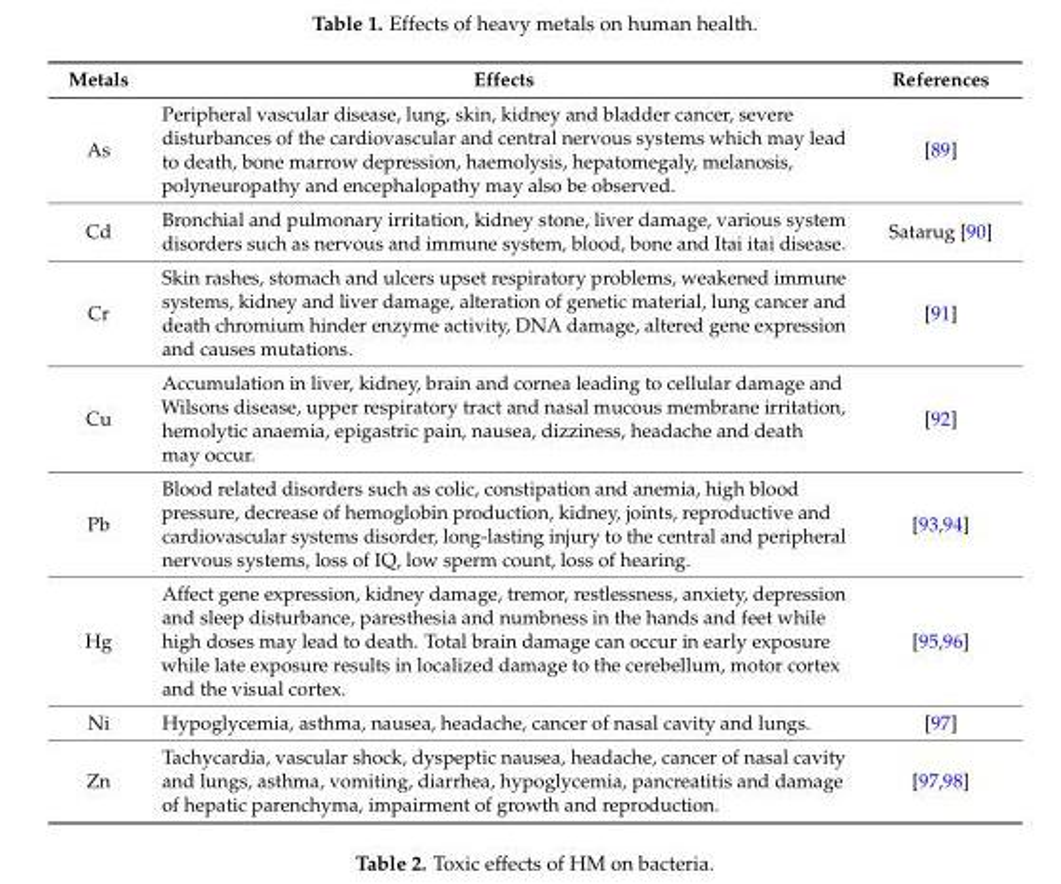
<table><thead><tr><td>Metals</td><td>Effects</td><td>References</td></tr></thead><tbody><tr><td>As</td><td>Peripheral vascular disease, lung, skin, kidney and bladder cancer, severe disturbances of the cardiovascular and central nervous systems which may lead to death, bone marrow depression, haemolysis, hepatomegaly, melanosis, polyneuropathy and encephalopathy may also be observed.</td><td>[89]</td></tr><tr><td>Cd</td><td>Bronchial and pulmonary irritation, kidney stone, liver damage, various system disorders such as nervous and immune system, blood, bone and Itai itai disease.</td><td>Satarug [90]</td></tr><tr><td>Cr</td><td>Skin rashes, stomach and ulcers upset respiratory problems, weakened immune systems, kidney and liver damage, alteration of genetic material, lung cancer and death chromium hinder enzyme activity, DNA damage, altered gene expression and causes mutations.</td><td>[91]</td></tr><tr><td>Cu</td><td>Accumulation in liver, kidney, brain and cornea leading to cellular damage and Wilsons disease, upper respiratory tract and nasal mucous membrane irritation, hemolytic anaemia, epigastric pain, nausea, dizziness, headache and death may occur.</td><td>[92]</td></tr><tr><td>Pb</td><td>Blood related disorders such as colic, constipation and anemia, high blood pressure, decrease of hemoglobin production, kidney, joints, reproductive and cardiovascular systems disorder, long-lasting injury to the central and peripheral nervous systems, loss of IQ, low sperm count, loss of hearing.</td><td>[93,94]</td></tr><tr><td>Hg</td><td>Affect gene expression, kidney damage, tremor, restlessness, anxiety, depression and sleep disturbance, paresthesia and numbness in the hands and feet while high doses may lead to death. Total brain damage can occur in early exposure while late exposure results in localized damage to the cerebellum, motor cortex and the visual cortex.</td><td>[95,96]</td></tr><tr><td>Ni</td><td>Hypoglycemia, asthma, nausea, headache, cancer of nasal cavity and lungs.</td><td>[97]</td></tr><tr><td>Zn</td><td>Tachycardia, vascular shock, dyspeptic nausea, headache, cancer of nasal cavity and lungs, asthma, vomiting, diarrhea, hypoglycemia, pancreatitis and damage of hepatic parenchyma, impairment of growth and reproduction.</td><td>[97,98]</td></tr></tbody></table>